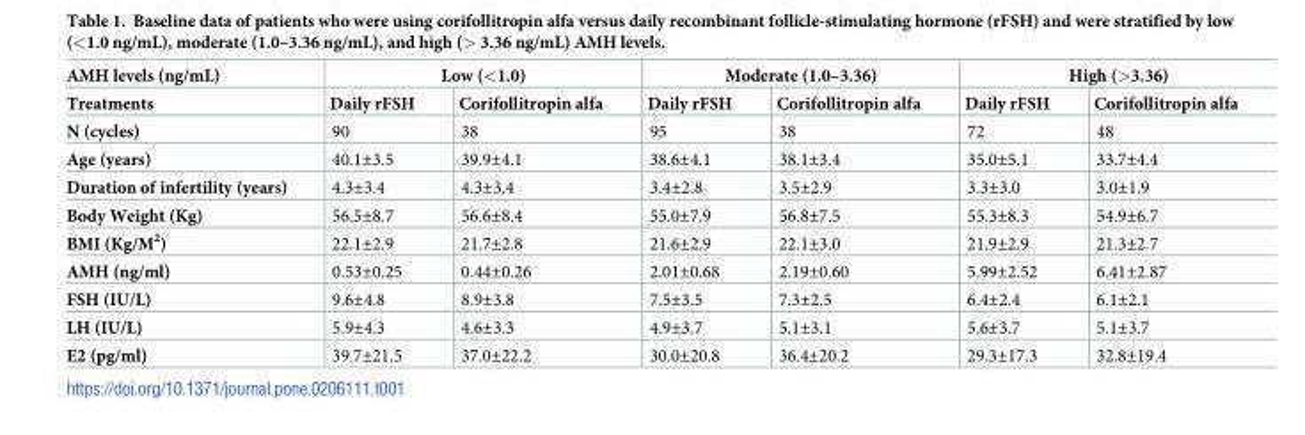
<table><thead><tr><td rowspan="2">AMH levels (ng/mL) Treatments</td><td colspan="2">Low (&lt;1.0)</td><td colspan="2">Moderate (1.0–3.36)</td><td colspan="2">High (&gt;3.36)</td></tr><tr><td>Daily rFSH</td><td>Corifollitropin alfa</td><td>Daily rFSH</td><td>Corifollitropin alfa</td><td>Daily rFSH</td><td>Corifollitropin alfa</td></tr></thead><tbody><tr><td>N (cycles)</td><td>90</td><td>38</td><td>95</td><td>38</td><td>72</td><td>48</td></tr><tr><td>Age (years)</td><td>40.1±3.5</td><td>39.9±4.1</td><td>38.6±4.1</td><td>38.1±3.4</td><td>35.0±5.1</td><td>33.7±4.4</td></tr><tr><td>Duration of infertility (years)</td><td>4.3±3.4</td><td>4.3±3.4</td><td>3.4±2.8</td><td>3.5±2.9</td><td>3.3±3.0</td><td>3.0±1.9</td></tr><tr><td>Body Weight (Kg)</td><td>56.5±8.7</td><td>56.6±8.4</td><td>55.0±7.9</td><td>56.8±7.5</td><td>55.3±8.3</td><td>54.9±6.7</td></tr><tr><td>BMI (Kg/M<sup>2</sup>)</td><td>22.1±2.9</td><td>21.7±2.8</td><td>21.6±2.9</td><td>22.1±3.0</td><td>21.9±2.9</td><td>21.3±2.7</td></tr><tr><td>AMH (ng/ml)</td><td>0.53±0.25</td><td>0.44±0.26</td><td>2.01±0.68</td><td>2.19±0.60</td><td>5.99±2.52</td><td>6.41±2.87</td></tr><tr><td>FSH (IU/L)</td><td>9.6±4.8</td><td>8.9±3.8</td><td>7.5±3.5</td><td>7.3±2.5</td><td>6.4±2.4</td><td>6.1±2.1</td></tr><tr><td>LH (IU/L)</td><td>5.9±4.3</td><td>4.6±3.3</td><td>4.9±3.7</td><td>5.1±3.1</td><td>5.6±3.7</td><td>5.1±3.7</td></tr><tr><td>E2 (pg/ml)</td><td>39.7±21.5</td><td>37.0±22.2</td><td>30.0±20.8</td><td>36.4±20.2</td><td>29.3±17.3</td><td>32.8±19.4</td></tr></tbody></table>